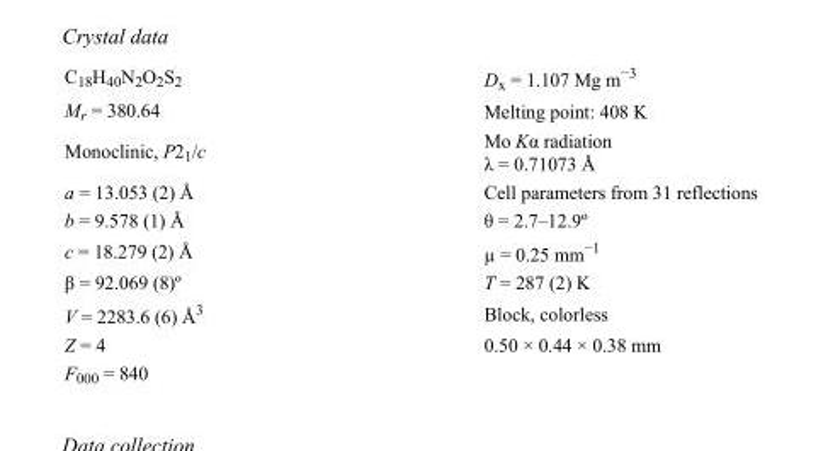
<table><tbody><tr><td>C<sub>18</sub>H<sub>40</sub>N<sub>2</sub>O<sub>2</sub>S<sub>2</sub></td><td>D<sub>x</sub> = 1.107 Mg m<sup>−3</sup></td></tr><tr><td>M<sub>r</sub> = 380.64</td><td>Melting point: 408 K</td></tr><tr><td>Monoclinic, P2<sub>1</sub>/c</td><td>Mo Kα radiation λ = 0.71073 Å</td></tr><tr><td>a = 13.053 (2) Å</td><td>Cell parameters from 31 reflections</td></tr><tr><td>b = 9.578 (1) Å</td><td>θ = 2.7–12.9º</td></tr><tr><td>c = 18.279 (2) Å</td><td>µ = 0.25 mm<sup>−1</sup></td></tr><tr><td>β = 92.069 (8)º</td><td>T = 287 (2) K</td></tr><tr><td>V = 2283.6 (6) Å<sup>3</sup></td><td>Block, colorless</td></tr><tr><td>Z = 4</td><td>0.50 × 0.44 × 0.38 mm</td></tr><tr><td>F000 = 840</td><td></td></tr></tbody></table>